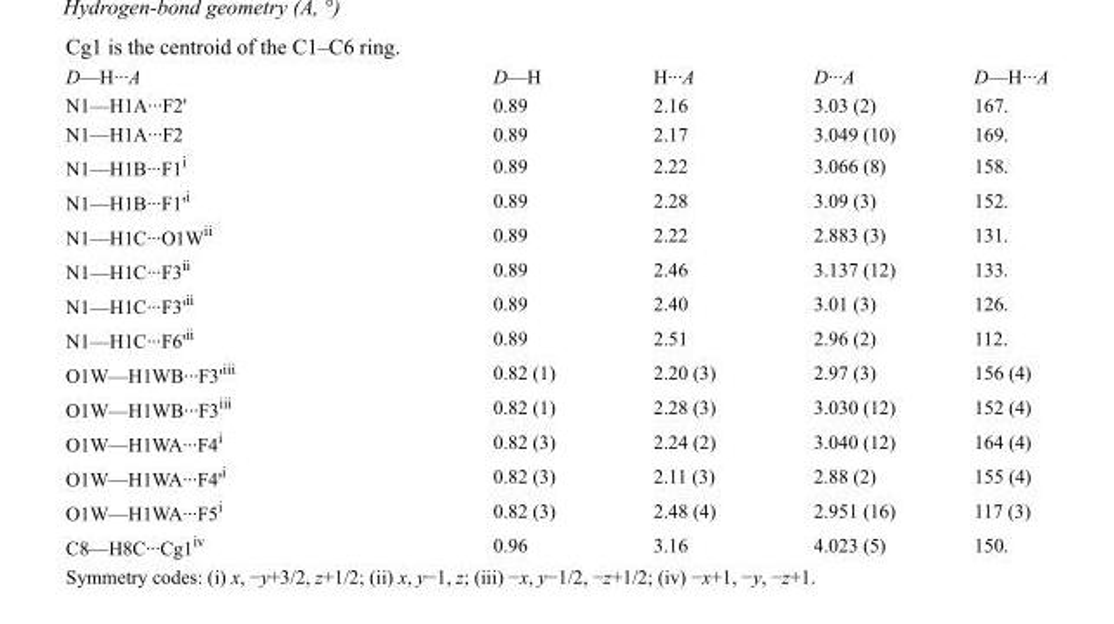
<table><tbody><tr><td>D—H···A</td><td>D—H</td><td>H···A</td><td>D···A</td><td>D—H···A</td></tr><tr><td>N1—H1A···F2&#x27;</td><td>0.89</td><td>2.16</td><td>3.03 (2)</td><td>167.</td></tr><tr><td>N1—H1A···F2</td><td>0.89</td><td>2.17</td><td>3.049 (10)</td><td>169.</td></tr><tr><td>N1—H1B···F1<sup>i</sup></td><td>0.89</td><td>2.22</td><td>3.066 (8)</td><td>158.</td></tr><tr><td>N1—H1B···F1&#x27;<sup>i</sup></td><td>0.89</td><td>2.28</td><td>3.09 (3)</td><td>152.</td></tr><tr><td>N1—H1C···O1W<sup>ii</sup></td><td>0.89</td><td>2.22</td><td>2.883 (3)</td><td>131.</td></tr><tr><td>N1—H1C···F3<sup>ii</sup></td><td>0.89</td><td>2.46</td><td>3.137 (12)</td><td>133.</td></tr><tr><td>N1—H1C···F3&#x27;<sup>ii</sup></td><td>0.89</td><td>2.40</td><td>3.01 (3)</td><td>126.</td></tr><tr><td>N1—H1C···F6&#x27;<sup>ii</sup></td><td>0.89</td><td>2.51</td><td>2.96 (2)</td><td>112.</td></tr><tr><td>O1W—H1WB···F3&#x27;<sup>iii</sup></td><td>0.82 (1)</td><td>2.20 (3)</td><td>2.97 (3)</td><td>156 (4)</td></tr><tr><td>O1W—H1WB···F3<sup>iii</sup></td><td>0.82 (1)</td><td>2.28 (3)</td><td>3.030 (12)</td><td>152 (4)</td></tr><tr><td>O1W—H1WA···F4<sup>i</sup></td><td>0.82 (3)</td><td>2.24 (2)</td><td>3.040 (12)</td><td>164 (4)</td></tr><tr><td>O1W—H1WA···F4&#x27;<sup>i</sup></td><td>0.82 (3)</td><td>2.11 (3)</td><td>2.88 (2)</td><td>155 (4)</td></tr><tr><td>O1W—H1WA···F5<sup>i</sup></td><td>0.82 (3)</td><td>2.48 (4)</td><td>2.951 (16)</td><td>117 (3)</td></tr><tr><td>C8—H8C···Cg1<sup>iv</sup></td><td>0.96</td><td>3.16</td><td>4.023 (5)</td><td>150.</td></tr></tbody></table>